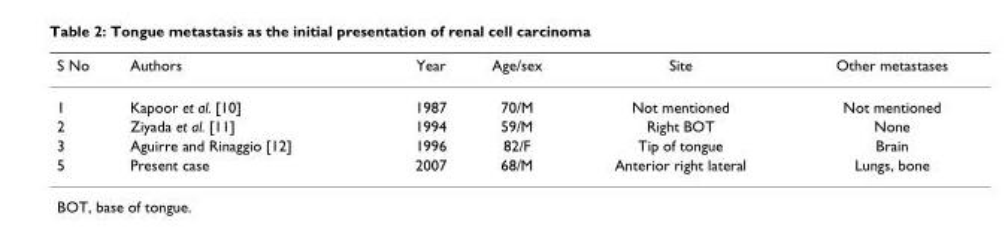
<table><thead><tr><td>S No</td><td>Authors</td><td>Year</td><td>Age/sex</td><td>Site</td><td>Other metastases</td></tr></thead><tbody><tr><td>1</td><td>Kapoor et al. [10]</td><td>1987</td><td>70/M</td><td>Not mentioned</td><td>Not mentioned</td></tr><tr><td>2</td><td>Ziyada et al. [11]</td><td>1994</td><td>59/M</td><td>Right BOT</td><td>None</td></tr><tr><td>3</td><td>Aguirre and Rinaggio [12]</td><td>1996</td><td>82/F</td><td>Tip of tongue</td><td>Brain</td></tr><tr><td>5</td><td>Present case</td><td>2007</td><td>68/M</td><td>Anterior right lateral</td><td>Lungs, bone</td></tr></tbody></table>